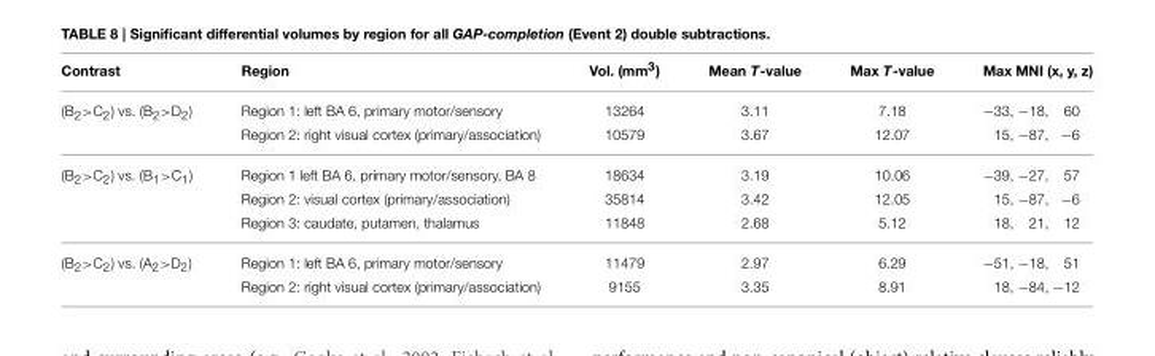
<table><thead><tr><td>Contrast</td><td>Region</td><td>Vol. (mm<sup>3</sup>)</td><td>Mean T-value</td><td>Max T-value</td><td>Max MNI (x, y, z)</td></tr></thead><tbody><tr><td rowspan="2">(B<sub>2</sub>&gt;C<sub>2</sub>) vs. (B<sub>2</sub>&gt;D<sub>2</sub>)</td><td>Region 1: left BA 6, primary motor/sensory</td><td>13264</td><td>3.11</td><td>7.18</td><td>−33, −18, 60</td></tr><tr><td>Region 2: right visual cortex (primary/association)</td><td>10579</td><td>3.67</td><td>12.07</td><td>15, −87, −6</td></tr><tr><td rowspan="3">(B<sub>2</sub>&gt;C<sub>2</sub>) vs. (B<sub>1</sub>&gt;C<sub>1</sub>)</td><td>Region 1 left BA 6, primary motor/sensory, BA 8</td><td>18634</td><td>3.19</td><td>10.06</td><td>−39, −27, 57</td></tr><tr><td>Region 2: visual cortex (primary/association)</td><td>35814</td><td>3.42</td><td>12.05</td><td>15, −87, −6</td></tr><tr><td>Region 3: caudate, putamen, thalamus</td><td>11848</td><td>2.68</td><td>5.12</td><td>18, 21, 12</td></tr><tr><td rowspan="2">(B<sub>2</sub>&gt;C<sub>2</sub>) vs. (A<sub>2</sub>&gt;D<sub>2</sub>)</td><td>Region 1: left BA 6, primary motor/sensory</td><td>11479</td><td>2.97</td><td>6.29</td><td>−51, −18, 51</td></tr><tr><td>Region 2: right visual cortex (primary/association)</td><td>9155</td><td>3.35</td><td>8.91</td><td>18, −84, −12</td></tr></tbody></table>